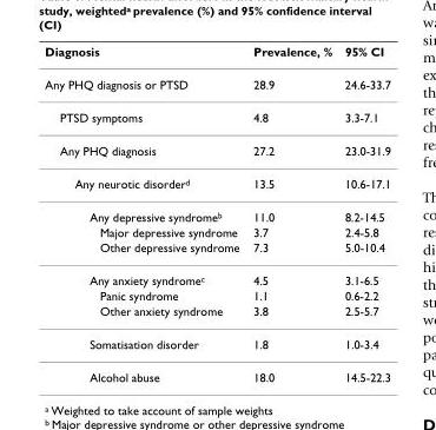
<table><thead><tr><td>Diagnosis</td><td>Prevalence, %</td><td>95% CI</td></tr></thead><tbody><tr><td>Any PHQ diagnosis or PTSD</td><td>28.9</td><td>24.6-33.7</td></tr><tr><td>PTSD symptoms</td><td>4.8</td><td>3.3-7.1</td></tr><tr><td>Any PHQ diagnosis</td><td>27.2</td><td>23.0-31.9</td></tr><tr><td>Any neurotic disorder<sup>d</sup></td><td>13.5</td><td>10.6-17.1</td></tr><tr><td>Any depressive syndrome<sup>b</sup></td><td>11.0</td><td>8.2-14.5</td></tr><tr><td>Major depressive syndrome</td><td>3.7</td><td>2.4-5.8</td></tr><tr><td>Other depressive syndrome</td><td>7.3</td><td>5.0-10.4</td></tr><tr><td>Any anxiety syndrome<sup>c</sup></td><td>4.5</td><td>3.1-6.5</td></tr><tr><td>Panic syndrome</td><td>1.1</td><td>0.6-2.2</td></tr><tr><td>Other anxiety syndrome</td><td>3.8</td><td>2.5-5.7</td></tr><tr><td>Somatisation disorder</td><td>1.8</td><td>1.0-3.4</td></tr><tr><td>Alcohol abuse</td><td>18.0</td><td>14.5-22.3</td></tr></tbody></table>